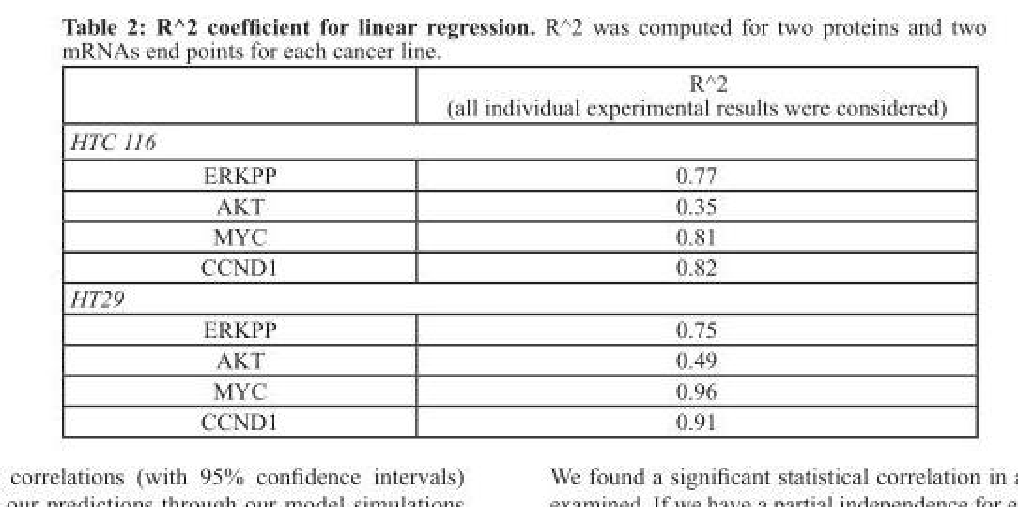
<table><thead><tr><td></td><td>R^2 (all individual experimental results were considered)</td></tr></thead><tbody><tr><td colspan="2">HTC 116</td></tr><tr><td>ERKPP</td><td>0.77</td></tr><tr><td>AKT</td><td>0.35</td></tr><tr><td>MYC</td><td>0.81</td></tr><tr><td>CCND1</td><td>0.82</td></tr><tr><td colspan="2">HT29</td></tr><tr><td>ERKPP</td><td>0.75</td></tr><tr><td>AKT</td><td>0.49</td></tr><tr><td>MYC</td><td>0.96</td></tr><tr><td>CCND1</td><td>0.91</td></tr></tbody></table>